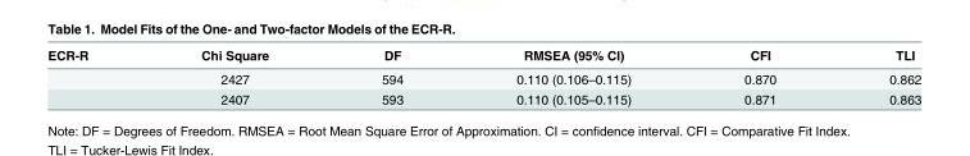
<table><thead><tr><td>ECR-R</td><td>Chi Square</td><td>DF</td><td>RMSEA (95% CI)</td><td>CFI</td><td>TLI</td></tr></thead><tbody><tr><td></td><td>2427</td><td>594</td><td>0.110 (0.106–0.115)</td><td>0.870</td><td>0.862</td></tr><tr><td></td><td>2407</td><td>593</td><td>0.110 (0.105–0.115)</td><td>0.871</td><td>0.863</td></tr></tbody></table>